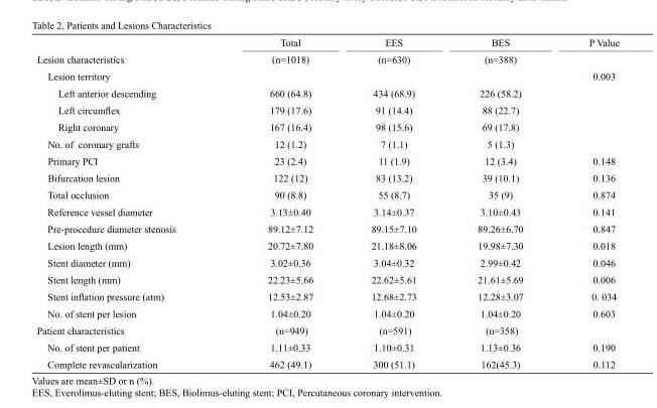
<table><thead><tr><td></td><td>Total</td><td>EES</td><td>BES</td><td>P Value</td></tr></thead><tbody><tr><td>Lesion characteristics</td><td>(n=1018)</td><td>(n=630)</td><td>(n=388)</td><td></td></tr><tr><td>Lesion territory</td><td></td><td></td><td></td><td>0.003</td></tr><tr><td>Left anterior descending</td><td>660 (64.8)</td><td>434 (68.9)</td><td>226 (58.2)</td><td></td></tr><tr><td>Left circumflex</td><td>179 (17.6)</td><td>91 (14.4)</td><td>88 (22.7)</td><td></td></tr><tr><td>Right coronary</td><td>167 (16.4)</td><td>98 (15.6)</td><td>69 (17.8)</td><td></td></tr><tr><td>No. of coronary grafts</td><td>12 (1.2)</td><td>7 (1.1)</td><td>5 (1.3)</td><td></td></tr><tr><td>Primary PCI</td><td>23 (2.4)</td><td>11 (1.9)</td><td>12 (3.4)</td><td>0.148</td></tr><tr><td>Bifurcation lesion</td><td>122 (12)</td><td>83 (13.2)</td><td>39 (10.1)</td><td>0.136</td></tr><tr><td>Total occlusion</td><td>90 (8.8)</td><td>55 (8.7)</td><td>35 (9)</td><td>0.874</td></tr><tr><td>Reference vessel diameter</td><td>3.13±0.40</td><td>3.14±0.37</td><td>3.10±0.43</td><td>0.141</td></tr><tr><td>Pre-procedure diameter stenosis</td><td>89.12±7.12</td><td>89.15±7.10</td><td>89.26±6.70</td><td>0.847</td></tr><tr><td>Lesion length (mm)</td><td>20.72±7.80</td><td>21.18±8.06</td><td>19.98±7.30</td><td>0.018</td></tr><tr><td>Stent diameter (mm)</td><td>3.02±0.36</td><td>3.04±0.32</td><td>2.99±0.42</td><td>0.046</td></tr><tr><td>Stent length (mm)</td><td>22.23±5.66</td><td>22.62±5.61</td><td>21.61±5.69</td><td>0.006</td></tr><tr><td>Stent inflation pressure (atm)</td><td>12.53±2.87</td><td>12.68±2.73</td><td>12.28±3.07</td><td>0. 034</td></tr><tr><td>No. of stent per lesion</td><td>1.04±0.20</td><td>1.04±0.20</td><td>1.04±0.20</td><td>0.603</td></tr><tr><td>Patient characteristics</td><td>(n=949)</td><td>(n=591)</td><td>(n=358)</td><td></td></tr><tr><td>No. of stent per patient</td><td>1.11±0.33</td><td>1.10±0.31</td><td>1.13±0.36</td><td>0.190</td></tr><tr><td>Complete revascularization</td><td>462 (49.1)</td><td>300 (51.1)</td><td>162(45.3)</td><td>0.112</td></tr></tbody></table>